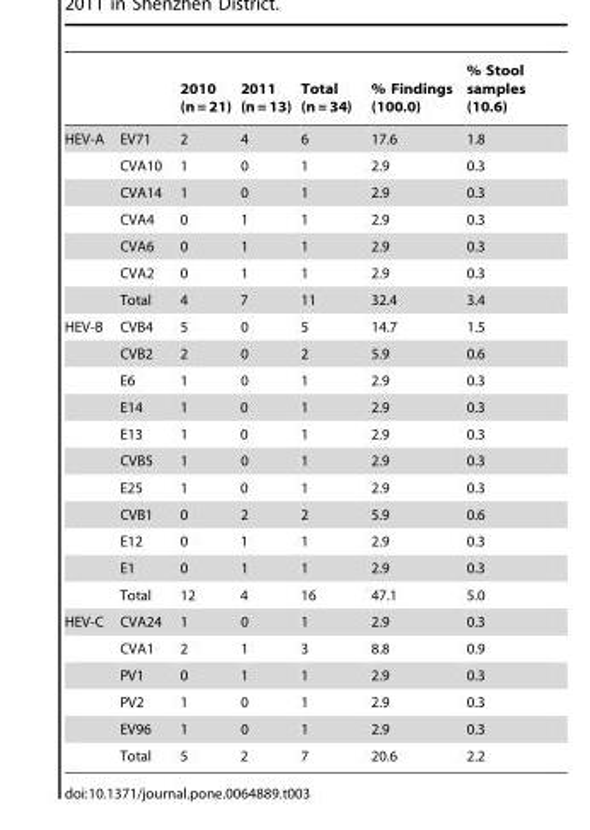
<table><thead><tr><td></td><td></td><td>2010 (n = 21)</td><td>2011 (n = 13)</td><td>Total (n = 34)</td><td>% Findings (100.0)</td><td>% Stool samples (10.6)</td></tr></thead><tbody><tr><td rowspan="7">HEV-A</td><td>EV71</td><td>2</td><td>4</td><td>6</td><td>17.6</td><td>1.8</td></tr><tr><td>CVA10</td><td>1</td><td>0</td><td>1</td><td>2.9</td><td>0.3</td></tr><tr><td>CVA14</td><td>1</td><td>0</td><td>1</td><td>2.9</td><td>0.3</td></tr><tr><td>CVA4</td><td>0</td><td>1</td><td>1</td><td>2.9</td><td>0.3</td></tr><tr><td>CVA6</td><td>0</td><td>1</td><td>1</td><td>2.9</td><td>0.3</td></tr><tr><td>CVA2</td><td>0</td><td>1</td><td>1</td><td>2.9</td><td>0.3</td></tr><tr><td>Total</td><td>4</td><td>7</td><td>11</td><td>32.4</td><td>3.4</td></tr><tr><td rowspan="11">HEV-B</td><td>CVB4</td><td>5</td><td>0</td><td>5</td><td>14.7</td><td>1.5</td></tr><tr><td>CVB2</td><td>2</td><td>0</td><td>2</td><td>5.9</td><td>0.6</td></tr><tr><td>E6</td><td>1</td><td>0</td><td>1</td><td>2.9</td><td>0.3</td></tr><tr><td>E14</td><td>1</td><td>0</td><td>1</td><td>2.9</td><td>0.3</td></tr><tr><td>E13</td><td>1</td><td>0</td><td>1</td><td>2.9</td><td>0.3</td></tr><tr><td>CVB5</td><td>1</td><td>0</td><td>1</td><td>2.9</td><td>0.3</td></tr><tr><td>E25</td><td>1</td><td>0</td><td>1</td><td>2.9</td><td>0.3</td></tr><tr><td>CVB1</td><td>0</td><td>2</td><td>2</td><td>5.9</td><td>0.6</td></tr><tr><td>E12</td><td>0</td><td>1</td><td>1</td><td>2.9</td><td>0.3</td></tr><tr><td>E1</td><td>0</td><td>1</td><td>1</td><td>2.9</td><td>0.3</td></tr><tr><td>Total</td><td>12</td><td>4</td><td>16</td><td>47.1</td><td>5.0</td></tr><tr><td rowspan="6">HEV-C</td><td>CVA24</td><td>1</td><td>0</td><td>1</td><td>2.9</td><td>0.3</td></tr><tr><td>CVA1</td><td>2</td><td>1</td><td>3</td><td>8.8</td><td>0.9</td></tr><tr><td>PV1</td><td>0</td><td>1</td><td>1</td><td>2.9</td><td>0.3</td></tr><tr><td>PV2</td><td>1</td><td>0</td><td>1</td><td>2.9</td><td>0.3</td></tr><tr><td>EV96</td><td>1</td><td>0</td><td>1</td><td>2.9</td><td>0.3</td></tr><tr><td>Total</td><td>5</td><td>2</td><td>7</td><td>20.6</td><td>2.2</td></tr></tbody></table>